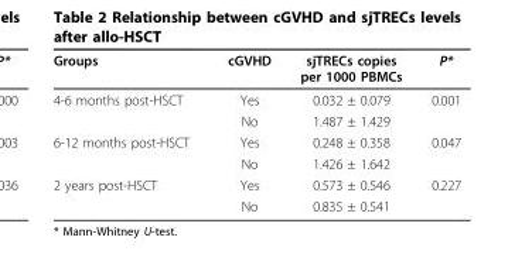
<table><thead><tr><td>Groups</td><td>cGVHD</td><td>sjTRECs copies per 1000 PBMCs</td><td>P*</td></tr></thead><tbody><tr><td rowspan="2">4-6 months post-HSCT</td><td>Yes</td><td>0.032 ± 0.079</td><td>0.001</td></tr><tr><td>No</td><td>1.487 ± 1.429</td><td></td></tr><tr><td rowspan="2">6-12 months post-HSCT</td><td>Yes</td><td>0.248 ± 0.358</td><td>0.047</td></tr><tr><td>No</td><td>1.426 ± 1.642</td><td></td></tr><tr><td rowspan="2">2 years post-HSCT</td><td>Yes</td><td>0.573 ± 0.546</td><td>0.227</td></tr><tr><td>No</td><td>0.835 ± 0.541</td><td></td></tr></tbody></table>